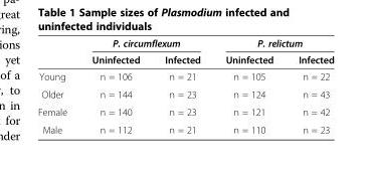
<table><thead><tr><td rowspan="2"></td><td colspan="2">P. circumflexum</td><td colspan="2">P. relictum</td></tr><tr><td>Uninfected</td><td>Infected</td><td>Uninfected</td><td>Infected</td></tr></thead><tbody><tr><td>Young</td><td>n = 106</td><td>n = 21</td><td>n = 105</td><td>n = 22</td></tr><tr><td>Older</td><td>n = 144</td><td>n = 23</td><td>n = 124</td><td>n = 43</td></tr><tr><td>Female</td><td>n = 140</td><td>n = 23</td><td>n = 121</td><td>n = 42</td></tr><tr><td>Male</td><td>n = 112</td><td>n = 21</td><td>n = 110</td><td>n = 23</td></tr></tbody></table>